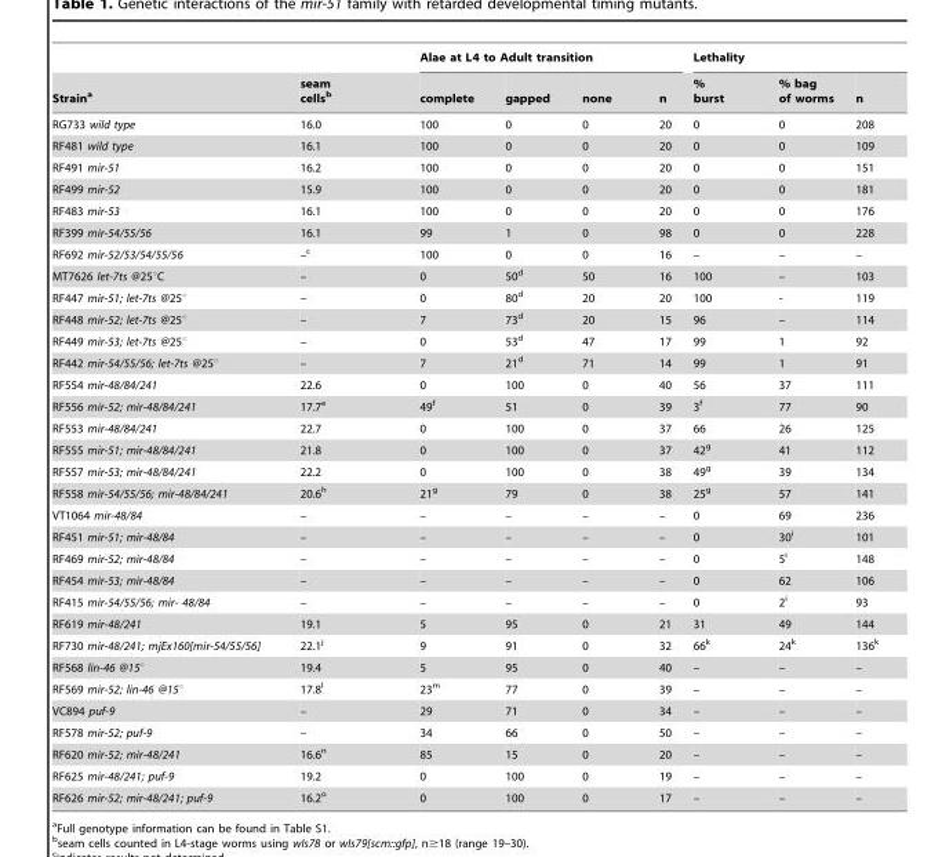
<table><thead><tr><td rowspan="2">Strain<sup>a</sup></td><td rowspan="2">seam cells<sup>b</sup></td><td colspan="4">Alae at L4 to Adult transition</td><td colspan="3">Lethality</td></tr><tr><td>complete</td><td>gapped</td><td>none</td><td>n</td><td>% burst</td><td>% bag of worms</td><td>n</td></tr></thead><tbody><tr><td>RG733 wild type</td><td>16.0</td><td>100</td><td>0</td><td>0</td><td>20</td><td>0</td><td>0</td><td>208</td></tr><tr><td>RF481 wild type</td><td>16.1</td><td>100</td><td>0</td><td>0</td><td>20</td><td>0</td><td>0</td><td>109</td></tr><tr><td>RF491 mir-51</td><td>16.2</td><td>100</td><td>0</td><td>0</td><td>20</td><td>0</td><td>0</td><td>151</td></tr><tr><td>RF499 mir-52</td><td>15.9</td><td>100</td><td>0</td><td>0</td><td>20</td><td>0</td><td>0</td><td>181</td></tr><tr><td>RF483 mir-53</td><td>16.1</td><td>100</td><td>0</td><td>0</td><td>20</td><td>0</td><td>0</td><td>176</td></tr><tr><td>RF399 mir-54/55/56</td><td>16.1</td><td>99</td><td>1</td><td>0</td><td>98</td><td>0</td><td>0</td><td>228</td></tr><tr><td>RF692 mir-52/53/54/55/56</td><td>–c</td><td>100</td><td>0</td><td>0</td><td>16</td><td>–</td><td>–</td><td>–</td></tr><tr><td>MT7626 let-7ts @25°C</td><td>–</td><td>0</td><td>50<sup>d</sup></td><td>50</td><td>16</td><td>100</td><td>–</td><td>103</td></tr><tr><td>RF447 mir-51; let-7ts @25°</td><td>–</td><td>0</td><td>80<sup>d</sup></td><td>20</td><td>20</td><td>100</td><td>-</td><td>119</td></tr><tr><td>RF448 mir-52; let-7ts @25°</td><td>–</td><td>7</td><td>73<sup>d</sup></td><td>20</td><td>15</td><td>96</td><td>–</td><td>114</td></tr><tr><td>RF449 mir-53; let-7ts @25°</td><td>–</td><td>0</td><td>53<sup>d</sup></td><td>47</td><td>17</td><td>99</td><td>1</td><td>92</td></tr><tr><td>RF442 mir-54/55/56; let-7ts @25°</td><td>–</td><td>7</td><td>21<sup>d</sup></td><td>71</td><td>14</td><td>99</td><td>1</td><td>91</td></tr><tr><td>RF554 mir-48/84/241</td><td>22.6</td><td>0</td><td>100</td><td>0</td><td>40</td><td>56</td><td>37</td><td>111</td></tr><tr><td>RF556 mir-52; mir-48/84/241</td><td>17.7<sup>e</sup></td><td>49<sup>f</sup></td><td>51</td><td>0</td><td>39</td><td>3<sup>f</sup></td><td>77</td><td>90</td></tr><tr><td>RF553 mir-48/84/241</td><td>22.7</td><td>0</td><td>100</td><td>0</td><td>37</td><td>66</td><td>26</td><td>125</td></tr><tr><td>RF555 mir-51; mir-48/84/241</td><td>21.8</td><td>0</td><td>100</td><td>0</td><td>37</td><td>42<sup>g</sup></td><td>41</td><td>112</td></tr><tr><td>RF557 mir-53; mir-48/84/241</td><td>22.2</td><td>0</td><td>100</td><td>0</td><td>38</td><td>49<sup>g</sup></td><td>39</td><td>134</td></tr><tr><td>RF558 mir-54/55/56; mir-48/84/241</td><td>20.6<sup>h</sup></td><td>21<sup>g</sup></td><td>79</td><td>0</td><td>38</td><td>25<sup>g</sup></td><td>57</td><td>141</td></tr><tr><td>VT1064 mir-48/84</td><td>–</td><td>–</td><td>–</td><td>–</td><td>–</td><td>0</td><td>69</td><td>236</td></tr><tr><td>RF451 mir-51; mir-48/84</td><td>–</td><td>–</td><td>–</td><td>–</td><td>–</td><td>0</td><td>30<sup>i</sup></td><td>101</td></tr><tr><td>RF469 mir-52; mir-48/84</td><td>–</td><td>–</td><td>–</td><td>–</td><td>–</td><td>0</td><td>5<sup>i</sup></td><td>148</td></tr><tr><td>RF454 mir-53; mir-48/84</td><td>–</td><td>–</td><td>–</td><td>–</td><td>–</td><td>0</td><td>62</td><td>106</td></tr><tr><td>RF415 mir-54/55/56; mir- 48/84</td><td>–</td><td>–</td><td>–</td><td>–</td><td>–</td><td>0</td><td>2<sup>i</sup></td><td>93</td></tr><tr><td>RF619 mir-48/241</td><td>19.1</td><td>5</td><td>95</td><td>0</td><td>21</td><td>31</td><td>49</td><td>144</td></tr><tr><td>RF730 mir-48/241; mjEx160[mir-54/55/56]</td><td>22.1<sup>j</sup></td><td>9</td><td>91</td><td>0</td><td>32</td><td>66<sup>k</sup></td><td>24<sup>k</sup></td><td>136<sup>k</sup></td></tr><tr><td>RF568 lin-46 @15°</td><td>19.4</td><td>5</td><td>95</td><td>0</td><td>40</td><td>–</td><td>–</td><td>–</td></tr><tr><td>RF569 mir-52; lin-46 @15°</td><td>17.8<sup>l</sup></td><td>23<sup>m</sup></td><td>77</td><td>0</td><td>39</td><td>–</td><td>–</td><td>–</td></tr><tr><td>VC894 puf-9</td><td>–</td><td>29</td><td>71</td><td>0</td><td>34</td><td>–</td><td>–</td><td>–</td></tr><tr><td>RF578 mir-52; puf-9</td><td>–</td><td>34</td><td>66</td><td>0</td><td>50</td><td>–</td><td>–</td><td>–</td></tr><tr><td>RF620 mir-52; mir-48/241</td><td>16.6<sup>n</sup></td><td>85</td><td>15</td><td>0</td><td>20</td><td>–</td><td>–</td><td>–</td></tr><tr><td>RF625 mir-48/241; puf-9</td><td>19.2</td><td>0</td><td>100</td><td>0</td><td>19</td><td>–</td><td>–</td><td>–</td></tr><tr><td>RF626 mir-52; mir-48/241; puf-9</td><td>16.2<sup>o</sup></td><td>0</td><td>100</td><td>0</td><td>17</td><td>–</td><td>–</td><td>–</td></tr></tbody></table>